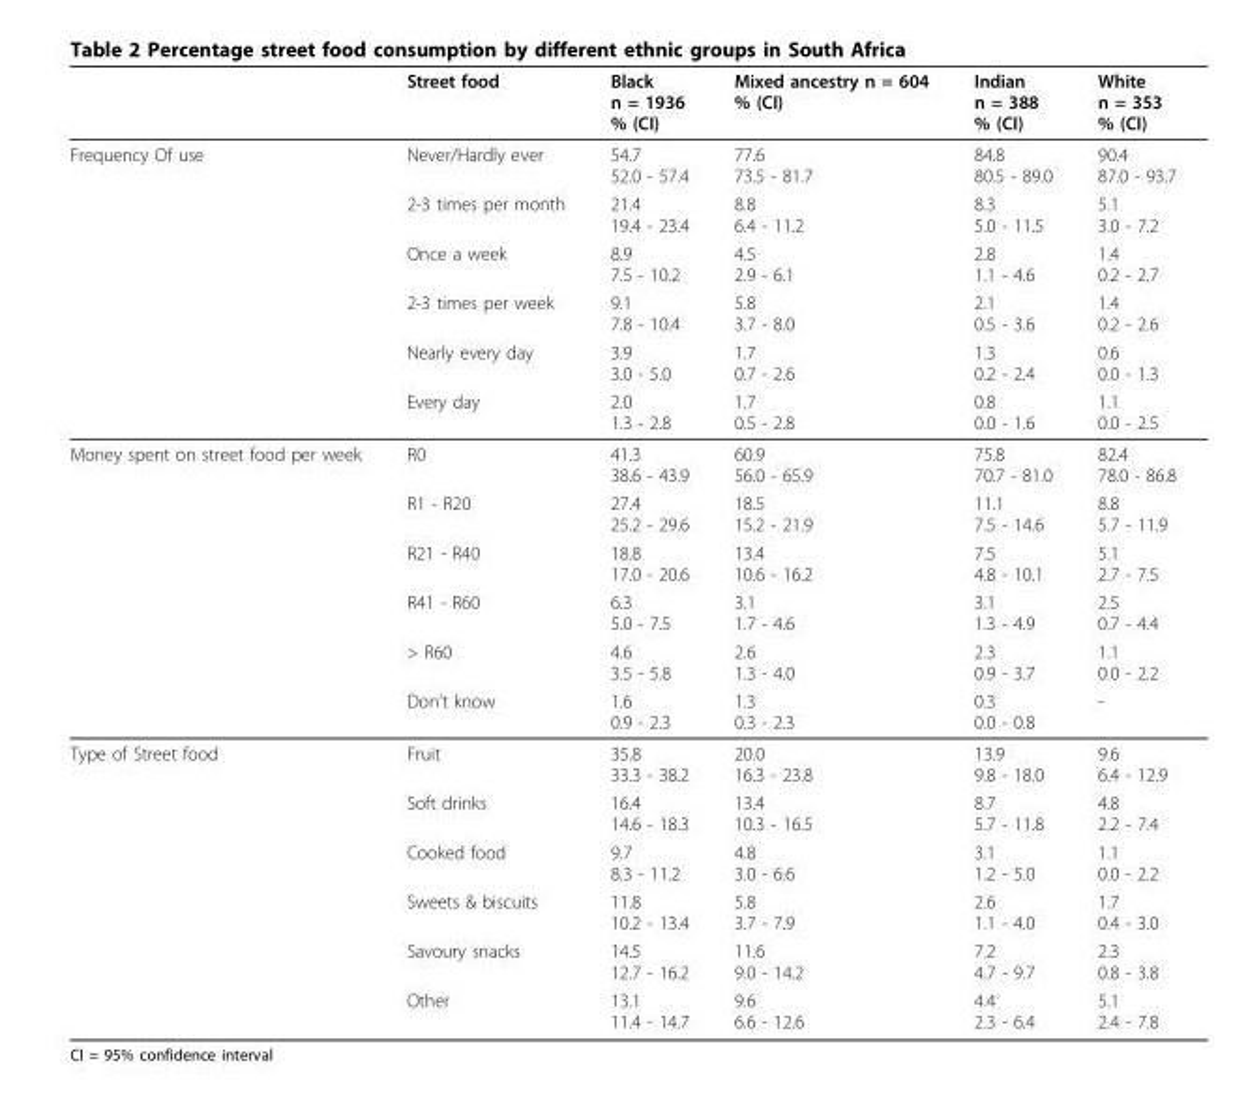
<table><thead><tr><td></td><td>Street food</td><td>Black n = 1936 % (CI)</td><td>Mixed ancestry n = 604 % (CI)</td><td>Indian n = 388 % (CI)</td><td>White n = 353 % (CI)</td></tr></thead><tbody><tr><td rowspan="6">Frequency Of use</td><td>Never/Hardly ever</td><td>54.7 52.0 - 57.4</td><td>77.6 73.5 - 81.7</td><td>84.8 80.5 - 89.0</td><td>90.4 87.0 - 93.7</td></tr><tr><td>2-3 times per month</td><td>21.4 19.4 - 23.4</td><td>8.8 6.4 - 11.2</td><td>8.3 5.0 - 11.5</td><td>5.1 3.0 - 7.2</td></tr><tr><td>Once a week</td><td>8.9 7.5 - 10.2</td><td>4.5 2.9 - 6.1</td><td>2.8 1.1 - 4.6</td><td>1.4 0.2 - 2.7</td></tr><tr><td>2-3 times per week</td><td>9.1 7.8 - 10.4</td><td>5.8 3.7 - 8.0</td><td>2.1 0.5 - 3.6</td><td>1.4 0.2 - 2.6</td></tr><tr><td>Nearly every day</td><td>3.9 3.0 - 5.0</td><td>1.7 0.7 - 2.6</td><td>1.3 0.2 - 2.4</td><td>0.6 0.0 - 1.3</td></tr><tr><td>Every day</td><td>2.0 1.3 - 2.8</td><td>1.7 0.5 - 2.8</td><td>0.8 0.0 - 1.6</td><td>1.1 0.0 - 2.5</td></tr><tr><td rowspan="6">Money spent on street food per week</td><td>R0</td><td>41.3 38.6 - 43.9</td><td>60.9 56.0 - 65.9</td><td>75.8 70.7 - 81.0</td><td>82.4 78.0 - 86.8</td></tr><tr><td>R1 - R20</td><td>27.4 25.2 - 29.6</td><td>18.5 15.2 - 21.9</td><td>11.1 7.5 - 14.6</td><td>8.8 5.7 - 11.9</td></tr><tr><td>R21 - R40</td><td>18.8 17.0 - 20.6</td><td>13.4 10.6 - 16.2</td><td>7.5 4.8 - 10.1</td><td>5.1 2.7 - 7.5</td></tr><tr><td>R41 - R60</td><td>6.3 5.0 - 7.5</td><td>3.1 1.7 - 4.6</td><td>3.1 1.3 - 4.9</td><td>2.5 0.7 - 4.4</td></tr><tr><td>&gt; R60</td><td>4.6 3.5 - 5.8</td><td>2.6 1.3 - 4.0</td><td>2.3 0.9 - 3.7</td><td>1.1 0.0 - 2.2</td></tr><tr><td>Don’t know</td><td>1.6 0.9 - 2.3</td><td>1.3 0.3 - 2.3</td><td>0.3 0.0 - 0.8</td><td>-</td></tr><tr><td rowspan="6">Type of Street food</td><td>Fruit</td><td>35.8 33.3 - 38.2</td><td>20.0 16.3 - 23.8</td><td>13.9 9.8 - 18.0</td><td>9.6 6.4 - 12.9</td></tr><tr><td>Soft drinks</td><td>16.4 14.6 - 18.3</td><td>13.4 10.3 - 16.5</td><td>8.7 5.7 - 11.8</td><td>4.8 2.2 - 7.4</td></tr><tr><td>Cooked food</td><td>9.7 8.3 - 11.2</td><td>4.8 3.0 - 6.6</td><td>3.1 1.2 - 5.0</td><td>1.1 0.0 - 2.2</td></tr><tr><td>Sweets &amp; biscuits</td><td>11.8 10.2 - 13.4</td><td>5.8 3.7 - 7.9</td><td>2.6 1.1 - 4.0</td><td>1.7 0.4 - 3.0</td></tr><tr><td>Savoury snacks</td><td>14.5 12.7 - 16.2</td><td>11.6 9.0 - 14.2</td><td>7.2 4.7 - 9.7</td><td>2.3 0.8 - 3.8</td></tr><tr><td>Other</td><td>13.1 11.4 - 14.7</td><td>9.6 6.6 - 12.6</td><td>4.4 2.3 - 6.4</td><td>5.1 2.4 - 7.8</td></tr></tbody></table>